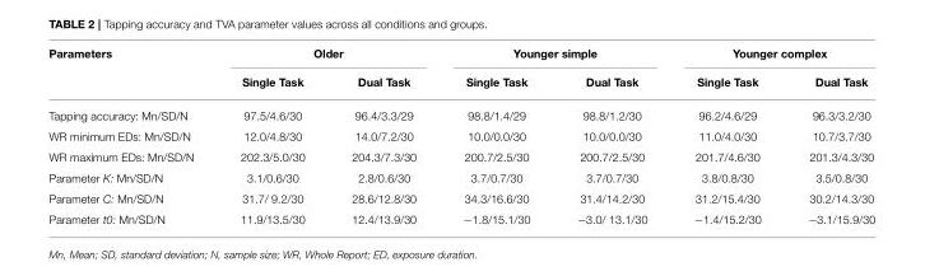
<table><thead><tr><td rowspan="2">Parameters</td><td colspan="2">Older</td><td colspan="2">Younger simple</td><td colspan="2">Younger complex</td></tr><tr><td>Single Task</td><td>Dual Task</td><td>Single Task</td><td>Dual Task</td><td>Single Task</td><td>Dual Task</td></tr></thead><tbody><tr><td>Tapping accuracy: Mn/SD/N</td><td>97.5/4.6/30</td><td>96.4/3.3/29</td><td>98.8/1.4/29</td><td>98.8/1.2/30</td><td>96.2/4.6/29</td><td>96.3/3.2/30</td></tr><tr><td>WR minimum EDs: Mn/SD/N</td><td>12.0/4.8/30</td><td>14.0/7.2/30</td><td>10.0/0.0/30</td><td>10.0/0.0/30</td><td>11.0/4.0/30</td><td>10.7/3.7/30</td></tr><tr><td>WR maximum EDs: Mn/SD/N</td><td>202.3/5.0/30</td><td>204.3/7.3/30</td><td>200.7/2.5/30</td><td>200.7/2.5/30</td><td>201.7/4.6/30</td><td>201.3/4.3/30</td></tr><tr><td>Parameter K: Mn/SD/N</td><td>3.1/0.6/30</td><td>2.8/0.6/30</td><td>3.7/0.7/30</td><td>3.7/0.7/30</td><td>3.8/0.8/30</td><td>3.5/0.8/30</td></tr><tr><td>Parameter C: Mn/SD/N</td><td>31.7/ 9.2/30</td><td>28.6/12.8/30</td><td>34.3/16.6/30</td><td>31.4/14.2/30</td><td>31.2/15.4/30</td><td>30.2/14.3/30</td></tr><tr><td>Parameter t0: Mn/SD/N</td><td>11.9/13.5/30</td><td>12.4/13.9/30</td><td>−1.8/15.1/30</td><td>−3.0/ 13.1/30</td><td>−1.4/15.2/30</td><td>−3.1/15.9/30</td></tr></tbody></table>